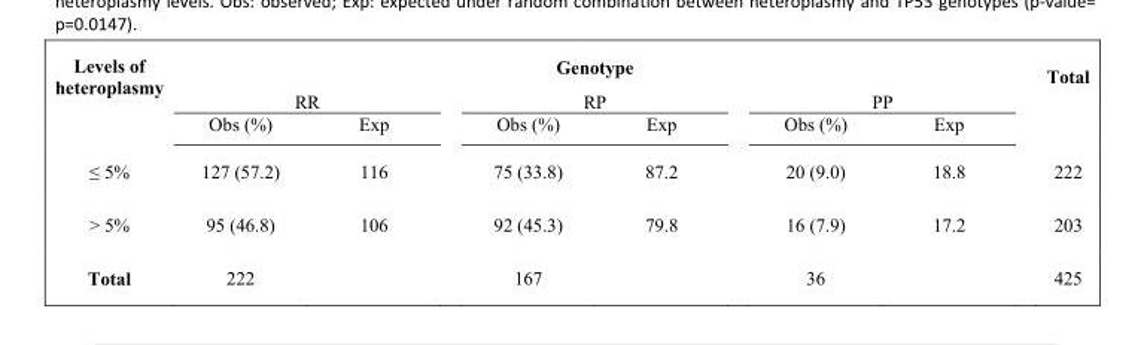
<table><thead><tr><td rowspan="3">Levels of heteroplasmy</td><td></td><td></td><td rowspan="2" colspan="2">Genotype RP</td><td></td><td></td><td rowspan="3">Total</td></tr><tr><td colspan="2">RR</td><td colspan="2">PP</td></tr><tr><td>Obs (%)</td><td>Exp</td><td>Obs (%)</td><td>Exp</td><td>Obs (%)</td><td>Exp</td></tr></thead><tbody><tr><td>≤ 5%</td><td>127 (57.2)</td><td>116</td><td>75 (33.8)</td><td>87.2</td><td>20 (9.0)</td><td>18.8</td><td>222</td></tr><tr><td>&gt; 5%</td><td>95 (46.8)</td><td>106</td><td>92 (45.3)</td><td>79.8</td><td>16 (7.9)</td><td>17.2</td><td>203</td></tr><tr><td>Total</td><td>222</td><td></td><td>167</td><td></td><td>36</td><td></td><td>425</td></tr></tbody></table>